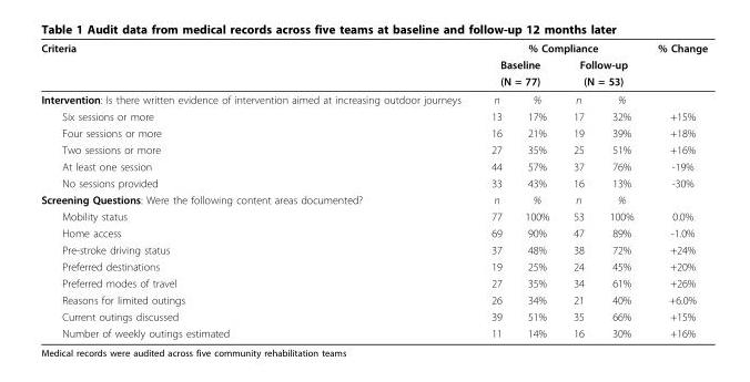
<table><thead><tr><td rowspan="4">Criteria Intervention: Is there written evidence of intervention aimed at increasing outdoor journeys</td><td colspan="4">% Compliance</td><td rowspan="4">% Change</td></tr><tr><td rowspan="2" colspan="2">Baseline (N = 77)</td><td rowspan="2" colspan="2">Follow-up (N = 53)</td></tr><tr></tr><tr><td>n</td><td>%</td><td>n</td><td>%</td></tr></thead><tbody><tr><td>Six sessions or more</td><td>13</td><td>17%</td><td>17</td><td>32%</td><td>+15%</td></tr><tr><td>Four sessions or more</td><td>16</td><td>21%</td><td>19</td><td>39%</td><td>+18%</td></tr><tr><td>Two sessions or more</td><td>27</td><td>35%</td><td>25</td><td>51%</td><td>+16%</td></tr><tr><td>At least one session</td><td>44</td><td>57%</td><td>37</td><td>76%</td><td>-19%</td></tr><tr><td>No sessions provided</td><td>33</td><td>43%</td><td>16</td><td>13%</td><td>-30%</td></tr><tr><td>Screening Questions: Were the following content areas documented?</td><td>n</td><td>%</td><td>n</td><td>%</td><td></td></tr><tr><td>Mobility status</td><td>77</td><td>100%</td><td>53</td><td>100%</td><td>0.0%</td></tr><tr><td>Home access</td><td>69</td><td>90%</td><td>47</td><td>89%</td><td>-1.0%</td></tr><tr><td>Pre-stroke driving status</td><td>37</td><td>48%</td><td>38</td><td>72%</td><td>+24%</td></tr><tr><td>Preferred destinations</td><td>19</td><td>25%</td><td>24</td><td>45%</td><td>+20%</td></tr><tr><td>Preferred modes of travel</td><td>27</td><td>35%</td><td>34</td><td>61%</td><td>+26%</td></tr><tr><td>Reasons for limited outings</td><td>26</td><td>34%</td><td>21</td><td>40%</td><td>+6.0%</td></tr><tr><td>Current outings discussed</td><td>39</td><td>51%</td><td>35</td><td>66%</td><td>+15%</td></tr><tr><td>Number of weekly outings estimated</td><td>11</td><td>14%</td><td>16</td><td>30%</td><td>+16%</td></tr></tbody></table>